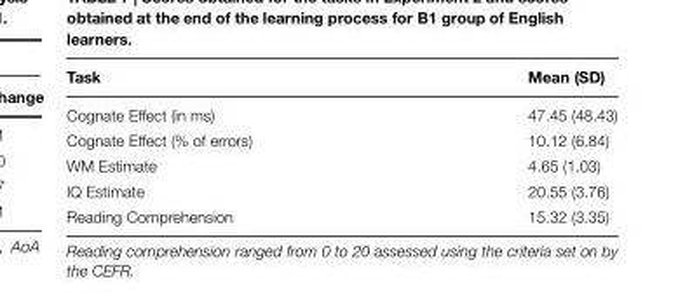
<table><thead><tr><td>Task</td><td>Mean (SD)</td></tr></thead><tbody><tr><td>Cognate Effect (in ms)</td><td>47.45 (48.43)</td></tr><tr><td>Cognate Effect (% of errors)</td><td>10.12 (6.84)</td></tr><tr><td>WM Estimate</td><td>4.65 (1.03)</td></tr><tr><td>IQ Estimate</td><td>20.55 (3.76)</td></tr><tr><td>Reading Comprehension</td><td>15.32 (3.35)</td></tr></tbody></table>